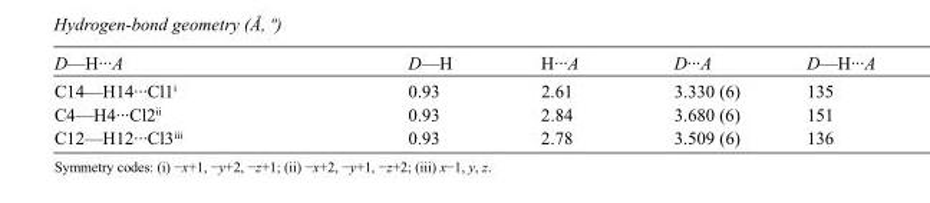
<table><tbody><tr><td>D—H···A</td><td>D—H</td><td>H···A</td><td>D···A</td><td>D—H···A</td></tr><tr><td>C14—H14···Cl1<sup>i</sup></td><td>0.93</td><td>2.61</td><td>3.330 (6)</td><td>135</td></tr><tr><td>C4—H4···Cl2<sup>ii</sup></td><td>0.93</td><td>2.84</td><td>3.680 (6)</td><td>151</td></tr><tr><td>C12—H12···Cl3<sup>iii</sup></td><td>0.93</td><td>2.78</td><td>3.509 (6)</td><td>136</td></tr></tbody></table>